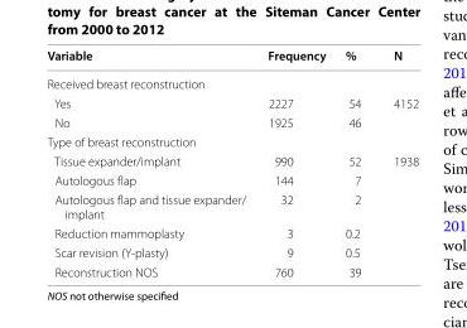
<table><thead><tr><td>Variable</td><td>Frequency</td><td>%</td><td>N</td></tr></thead><tbody><tr><td colspan="4">Received breast reconstruction</td></tr><tr><td>Yes</td><td>2227</td><td>54</td><td>4152</td></tr><tr><td>No</td><td>1925</td><td>46</td><td></td></tr><tr><td colspan="4">Type of breast reconstruction</td></tr><tr><td>Tissue expander/implant</td><td>990</td><td>52</td><td>1938</td></tr><tr><td>Autologous flap</td><td>144</td><td>7</td><td></td></tr><tr><td>Autologous flap and tissue expander/ implant</td><td>32</td><td>2</td><td></td></tr><tr><td>Reduction mammoplasty</td><td>3</td><td>0.2</td><td></td></tr><tr><td>Scar revision (Y-plasty)</td><td>9</td><td>0.5</td><td></td></tr><tr><td>Reconstruction NOS</td><td>760</td><td>39</td><td></td></tr></tbody></table>